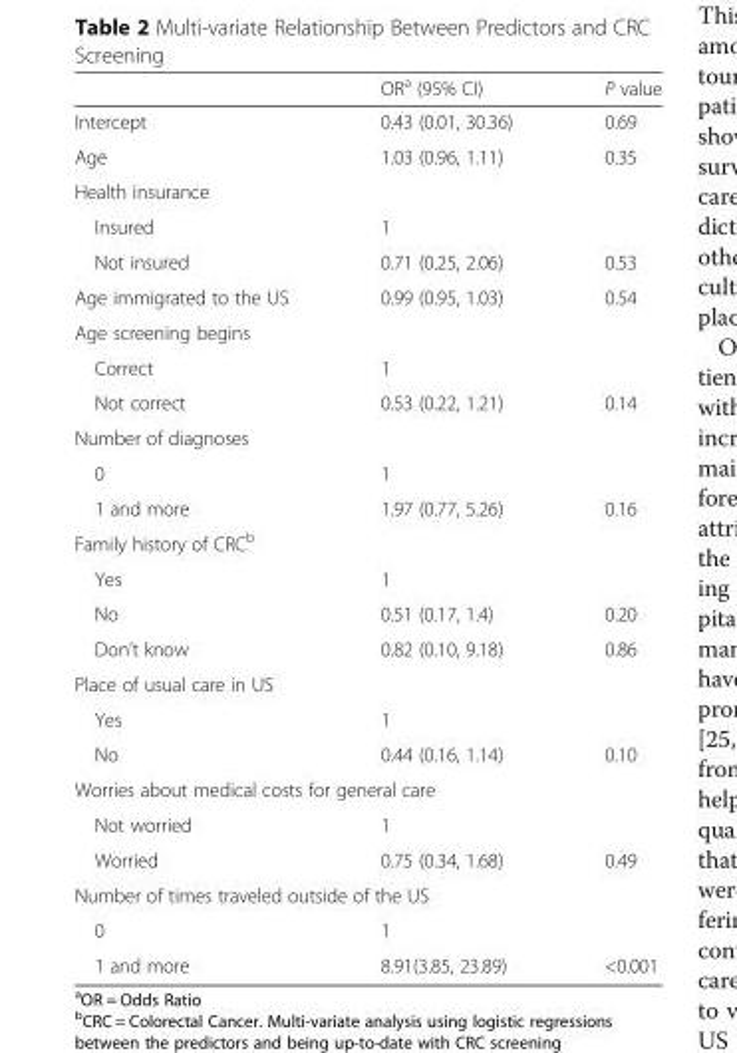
<table><thead><tr><td></td><td>OR<sup>a</sup> (95% CI)</td><td>P value</td></tr></thead><tbody><tr><td>Intercept</td><td>0.43 (0.01, 30.36)</td><td>0.69</td></tr><tr><td>Age</td><td>1.03 (0.96, 1.11)</td><td>0.35</td></tr><tr><td colspan="3">Health insurance</td></tr><tr><td>Insured</td><td>1</td><td></td></tr><tr><td>Not insured</td><td>0.71 (0.25, 2.06)</td><td>0.53</td></tr><tr><td>Age immigrated to the US</td><td>0.99 (0.95, 1.03)</td><td>0.54</td></tr><tr><td colspan="3">Age screening begins</td></tr><tr><td>Correct</td><td>1</td><td></td></tr><tr><td>Not correct</td><td>0.53 (0.22, 1.21)</td><td>0.14</td></tr><tr><td colspan="3">Number of diagnoses</td></tr><tr><td>0</td><td>1</td><td></td></tr><tr><td>1 and more</td><td>1.97 (0.77, 5.26)</td><td>0.16</td></tr><tr><td colspan="3">Family history of CRC<sup>b</sup></td></tr><tr><td>Yes</td><td>1</td><td></td></tr><tr><td>No</td><td>0.51 (0.17, 1.4)</td><td>0.20</td></tr><tr><td>Don’t know</td><td>0.82 (0.10, 9.18)</td><td>0.86</td></tr><tr><td colspan="3">Place of usual care in US</td></tr><tr><td>Yes</td><td>1</td><td></td></tr><tr><td>No</td><td>0.44 (0.16, 1.14)</td><td>0.10</td></tr><tr><td colspan="3">Worries about medical costs for general care</td></tr><tr><td>Not worried</td><td>1</td><td></td></tr><tr><td>Worried</td><td>0.75 (0.34, 1.68)</td><td>0.49</td></tr><tr><td colspan="3">Number of times traveled outside of the US</td></tr><tr><td>0</td><td>1</td><td></td></tr><tr><td>1 and more</td><td>8.91(3.85, 23.89)</td><td>&lt;0.001</td></tr></tbody></table>